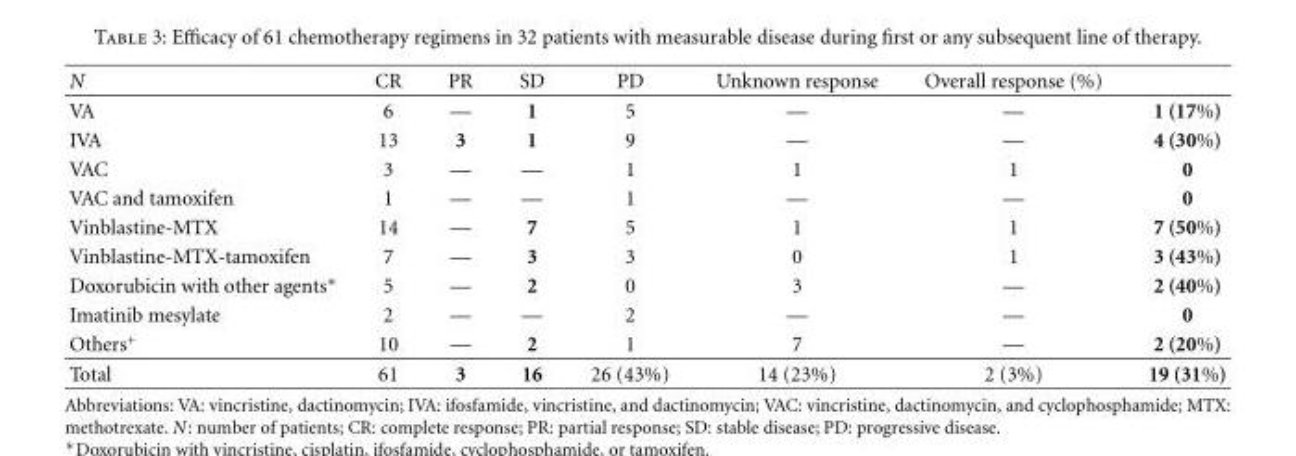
<table><thead><tr><td>N</td><td>CR</td><td>PR</td><td>SD</td><td>PD</td><td>Unknown response</td><td>Overall response (%)</td><td></td></tr></thead><tbody><tr><td>VA</td><td>6</td><td>—</td><td>1</td><td>5</td><td>—</td><td>—</td><td>1 (17%)</td></tr><tr><td>IVA</td><td>13</td><td>3</td><td>1</td><td>9</td><td>—</td><td>—</td><td>4 (30%)</td></tr><tr><td>VAC</td><td>3</td><td>—</td><td>—</td><td>1</td><td>1</td><td>1</td><td>0</td></tr><tr><td>VAC and tamoxifen</td><td>1</td><td>—</td><td>—</td><td>1</td><td>—</td><td>—</td><td>0</td></tr><tr><td>Vinblastine-MTX</td><td>14</td><td>—</td><td>7</td><td>5</td><td>1</td><td>1</td><td>7 (50%)</td></tr><tr><td>Vinblastine-MTX-tamoxifen</td><td>7</td><td>—</td><td>3</td><td>3</td><td>0</td><td>1</td><td>3 (43%)</td></tr><tr><td>Doxorubicin with other agents∗</td><td>5</td><td>—</td><td>2</td><td>0</td><td>3</td><td>—</td><td>2 (40%)</td></tr><tr><td>Imatinib mesylate</td><td>2</td><td>—</td><td>—</td><td>2</td><td>—</td><td>—</td><td>0</td></tr><tr><td>Others<sup>+</sup></td><td>10</td><td>—</td><td>2</td><td>1</td><td>7</td><td>—</td><td>2 (20%)</td></tr><tr><td>Total</td><td>61</td><td>3</td><td>16</td><td>26 (43%)</td><td>14 (23%)</td><td>2 (3%)</td><td>19 (31%)</td></tr></tbody></table>